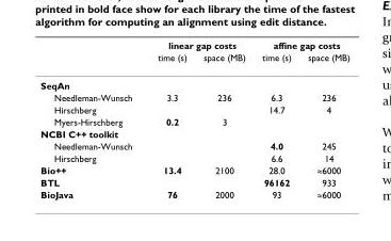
<table><thead><tr><td rowspan="2"></td><td colspan="2">linear gap costs</td><td colspan="2">affine gap costs</td></tr><tr><td>time (s)</td><td>space (MB)</td><td>time (s)</td><td>space (MB)</td></tr></thead><tbody><tr><td colspan="5">SeqAn</td></tr><tr><td>Needleman-Wunsch</td><td>3.3</td><td>236</td><td>6.3</td><td>236</td></tr><tr><td>Hirschberg</td><td></td><td></td><td>14.7</td><td>4</td></tr><tr><td>Myers-Hirschberg</td><td>0.2</td><td>3</td><td></td><td></td></tr><tr><td colspan="5">NCBI C++ toolkit</td></tr><tr><td>Needleman-Wunsch</td><td></td><td></td><td>4.0</td><td>245</td></tr><tr><td>Hirschberg</td><td></td><td></td><td>6.6</td><td>14</td></tr><tr><td>Bio++</td><td>13.4</td><td>2100</td><td>28.0</td><td>≈6000</td></tr><tr><td>BTL</td><td></td><td></td><td>96162</td><td>933</td></tr><tr><td>BioJava</td><td>76</td><td>2000</td><td>93</td><td>≈6000</td></tr></tbody></table>